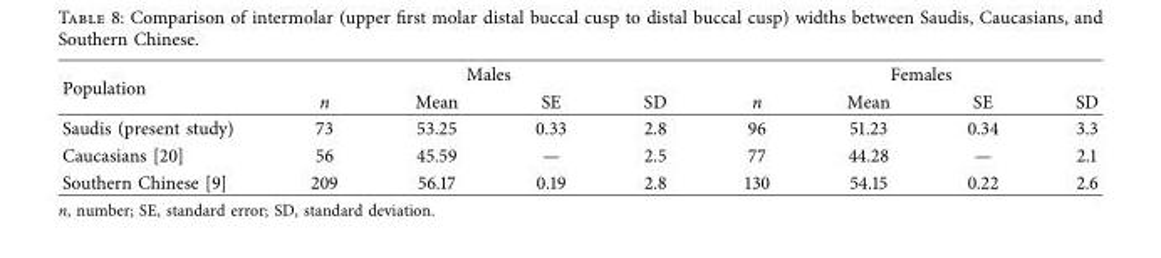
<table><thead><tr><td rowspan="2">Population</td><td colspan="4">Males</td><td colspan="4">Females</td></tr><tr><td>n</td><td>Mean</td><td>SE</td><td>SD</td><td>n</td><td>Mean</td><td>SE</td><td>SD</td></tr></thead><tbody><tr><td>Saudis (present study)</td><td>73</td><td>53.25</td><td>0.33</td><td>2.8</td><td>96</td><td>51.23</td><td>0.34</td><td>3.3</td></tr><tr><td>Caucasians [20]</td><td>56</td><td>45.59</td><td>—</td><td>2.5</td><td>77</td><td>44.28</td><td>—</td><td>2.1</td></tr><tr><td>Southern Chinese [9]</td><td>209</td><td>56.17</td><td>0.19</td><td>2.8</td><td>130</td><td>54.15</td><td>0.22</td><td>2.6</td></tr></tbody></table>